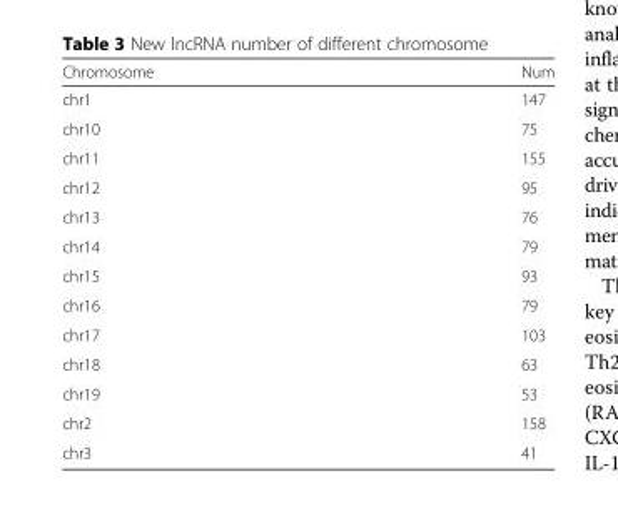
<table><thead><tr><td>Chromosome</td><td>Num</td></tr></thead><tbody><tr><td>chr1</td><td>147</td></tr><tr><td>chr10</td><td>75</td></tr><tr><td>chr11</td><td>155</td></tr><tr><td>chr12</td><td>95</td></tr><tr><td>chr13</td><td>76</td></tr><tr><td>chr14</td><td>79</td></tr><tr><td>chr15</td><td>93</td></tr><tr><td>chr16</td><td>79</td></tr><tr><td>chr17</td><td>103</td></tr><tr><td>chr18</td><td>63</td></tr><tr><td>chr19</td><td>53</td></tr><tr><td>chr2</td><td>158</td></tr><tr><td>chr3</td><td>41</td></tr></tbody></table>